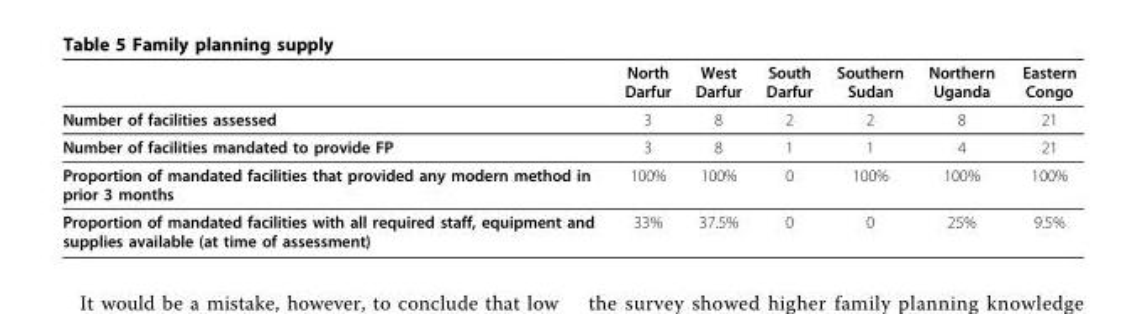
<table><thead><tr><td></td><td>North Darfur</td><td>West Darfur</td><td>South Darfur</td><td>Southern Sudan</td><td>Northern Uganda</td><td>Eastern Congo</td></tr></thead><tbody><tr><td>Number of facilities assessed</td><td>3</td><td>8</td><td>2</td><td>2</td><td>8</td><td>21</td></tr><tr><td>Number of facilities mandated to provide FP</td><td>3</td><td>8</td><td>1</td><td>1</td><td>4</td><td>21</td></tr><tr><td>Proportion of mandated facilities that provided any modern method in prior 3 months</td><td>100%</td><td>100%</td><td>0</td><td>100%</td><td>100%</td><td>100%</td></tr><tr><td>Proportion of mandated facilities with all required staff, equipment and supplies available (at time of assessment)</td><td>33%</td><td>37.5%</td><td>0</td><td>0</td><td>25%</td><td>9.5%</td></tr></tbody></table>